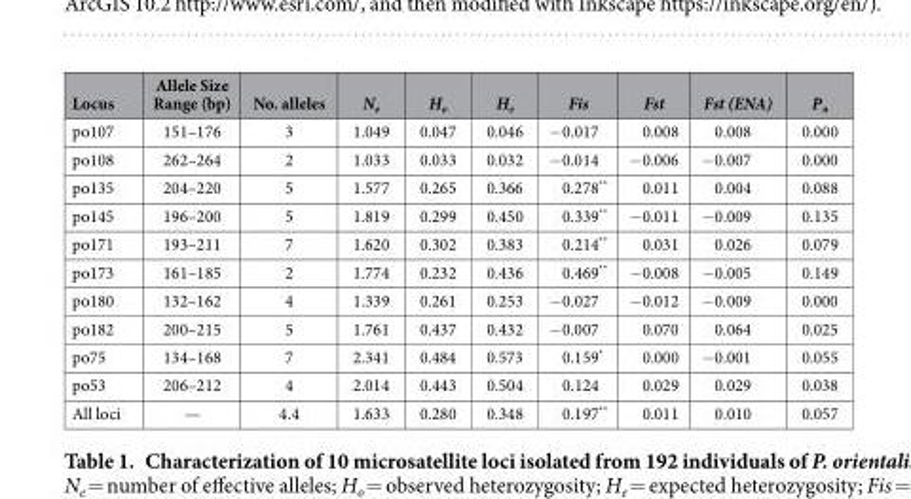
<table><thead><tr><td>Locus</td><td>Allele Size Range (bp)</td><td>No. alleles</td><td>N<sub>e</sub></td><td>H<sub>o</sub></td><td>H<sub>e</sub></td><td>Fis</td><td>Fst</td><td>Fst (ENA)</td><td>P<sub>n</sub></td></tr></thead><tbody><tr><td>po107</td><td>151–176</td><td>3</td><td>1.049</td><td>0.047</td><td>0.046</td><td>− 0.017</td><td>0.008</td><td>0.008</td><td>0.000</td></tr><tr><td>po108</td><td>262–264</td><td>2</td><td>1.033</td><td>0.033</td><td>0.032</td><td>− 0.014</td><td>− 0.006</td><td>− 0.007</td><td>0.000</td></tr><tr><td>po135</td><td>204–220</td><td>5</td><td>1.577</td><td>0.265</td><td>0.366</td><td>0.278**</td><td>0.011</td><td>0.004</td><td>0.088</td></tr><tr><td>po145</td><td>196–200</td><td>5</td><td>1.819</td><td>0.299</td><td>0.450</td><td>0.339**</td><td>− 0.011</td><td>− 0.009</td><td>0.135</td></tr><tr><td>po171</td><td>193–211</td><td>7</td><td>1.620</td><td>0.302</td><td>0.383</td><td>0.214**</td><td>0.031</td><td>0.026</td><td>0.079</td></tr><tr><td>po173</td><td>161–185</td><td>2</td><td>1.774</td><td>0.232</td><td>0.436</td><td>0.469**</td><td>− 0.008</td><td>− 0.005</td><td>0.149</td></tr><tr><td>po180</td><td>132–162</td><td>4</td><td>1.339</td><td>0.261</td><td>0.253</td><td>− 0.027</td><td>− 0.012</td><td>− 0.009</td><td>0.000</td></tr><tr><td>po182</td><td>200–215</td><td>5</td><td>1.761</td><td>0.437</td><td>0.432</td><td>− 0.007</td><td>0.070</td><td>0.064</td><td>0.025</td></tr><tr><td>po75</td><td>134–168</td><td>7</td><td>2.341</td><td>0.484</td><td>0.573</td><td>0.159*</td><td>0.000</td><td>− 0.001</td><td>0.055</td></tr><tr><td>po53</td><td>206–212</td><td>4</td><td>2.014</td><td>0.443</td><td>0.504</td><td>0.124</td><td>0.029</td><td>0.029</td><td>0.038</td></tr><tr><td>All loci</td><td>—</td><td>4.4</td><td>1.633</td><td>0.280</td><td>0.348</td><td>0.197**</td><td>0.011</td><td>0.010</td><td>0.057</td></tr></tbody></table>